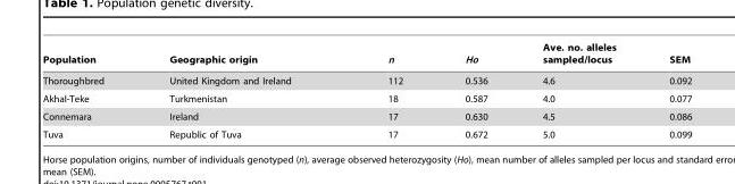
<table><thead><tr><td>Population</td><td>Geographic origin</td><td>n</td><td>Ho</td><td>Ave. no. alleles sampled/locus</td><td>SEM</td></tr></thead><tbody><tr><td>Thoroughbred</td><td>United Kingdom and Ireland</td><td>112</td><td>0.536</td><td>4.6</td><td>0.092</td></tr><tr><td>Akhal-Teke</td><td>Turkmenistan</td><td>18</td><td>0.587</td><td>4.0</td><td>0.077</td></tr><tr><td>Connemara</td><td>Ireland</td><td>17</td><td>0.630</td><td>4.5</td><td>0.086</td></tr><tr><td>Tuva</td><td>Republic of Tuva</td><td>17</td><td>0.672</td><td>5.0</td><td>0.099</td></tr></tbody></table>